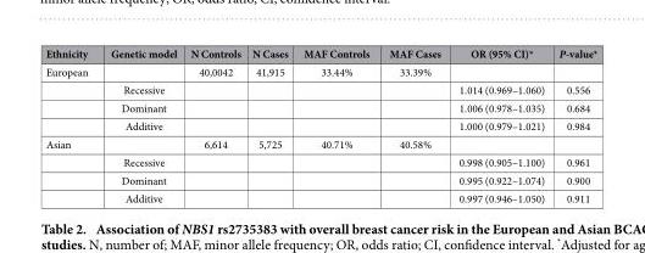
<table><thead><tr><td>Ethnicity</td><td>Genetic model</td><td>N Controls</td><td>N Cases</td><td>MAF Controls</td><td>MAF Cases</td><td>OR (95% CI)*</td><td>P-value*</td></tr></thead><tbody><tr><td rowspan="4">European</td><td></td><td>40,0042</td><td>41,915</td><td>33.44%</td><td>33.39%</td><td></td><td></td></tr><tr><td>Recessive</td><td></td><td></td><td></td><td></td><td>1.014 (0.969–1.060)</td><td>0.556</td></tr><tr><td>Dominant</td><td></td><td></td><td></td><td></td><td>1.006 (0.978–1.035)</td><td>0.684</td></tr><tr><td>Additive</td><td></td><td></td><td></td><td></td><td>1.000 (0.979–1.021)</td><td>0.984</td></tr><tr><td rowspan="4">Asian</td><td></td><td>6,614</td><td>5,725</td><td>40.71%</td><td>40.58%</td><td></td><td></td></tr><tr><td>Recessive</td><td></td><td></td><td></td><td></td><td>0.998 (0.905–1.100)</td><td>0.961</td></tr><tr><td>Dominant</td><td></td><td></td><td></td><td></td><td>0.995 (0.922–1.074)</td><td>0.900</td></tr><tr><td>Additive</td><td></td><td></td><td></td><td></td><td>0.997 (0.946–1.050)</td><td>0.911</td></tr></tbody></table>